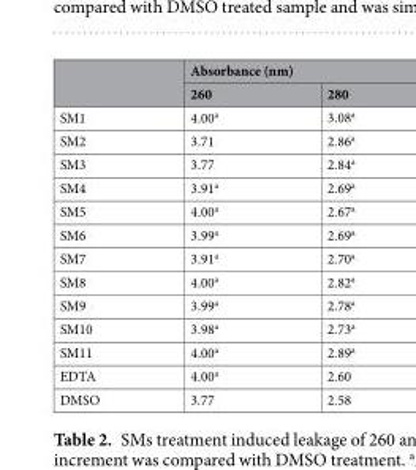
<table><thead><tr><td rowspan="2"></td><td colspan="2">Absorbance (nm)</td></tr><tr><td>260</td><td>280</td></tr></thead><tbody><tr><td>SM1</td><td>4.00<sup>a</sup></td><td>3.08<sup>a</sup></td></tr><tr><td>SM2</td><td>3.71</td><td>2.86<sup>a</sup></td></tr><tr><td>SM3</td><td>3.77</td><td>2.84<sup>a</sup></td></tr><tr><td>SM4</td><td>3.91<sup>a</sup></td><td>2.69<sup>a</sup></td></tr><tr><td>SM5</td><td>4.00<sup>a</sup></td><td>2.67<sup>a</sup></td></tr><tr><td>SM6</td><td>3.99<sup>a</sup></td><td>2.69<sup>a</sup></td></tr><tr><td>SM7</td><td>3.91<sup>a</sup></td><td>2.70<sup>a</sup></td></tr><tr><td>SM8</td><td>4.00<sup>a</sup></td><td>2.82<sup>a</sup></td></tr><tr><td>SM9</td><td>3.99<sup>a</sup></td><td>2.78<sup>a</sup></td></tr><tr><td>SM10</td><td>3.98<sup>a</sup></td><td>2.73<sup>a</sup></td></tr><tr><td>SM11</td><td>4.00<sup>a</sup></td><td>2.89<sup>a</sup></td></tr><tr><td>EDTA</td><td>4.00<sup>a</sup></td><td>2.60</td></tr><tr><td>DMSO</td><td>3.77</td><td>2.58</td></tr></tbody></table>